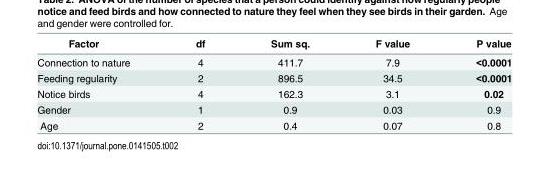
<table><thead><tr><td>Factor</td><td>df</td><td>Sum sq.</td><td>F value</td><td>P value</td></tr></thead><tbody><tr><td>Connection to nature</td><td>4</td><td>411.7</td><td>7.9</td><td>&lt;0.0001</td></tr><tr><td>Feeding regularity</td><td>2</td><td>896.5</td><td>34.5</td><td>&lt;0.0001</td></tr><tr><td>Notice birds</td><td>4</td><td>162.3</td><td>3.1</td><td>0.02</td></tr><tr><td>Gender</td><td>1</td><td>0.9</td><td>0.03</td><td>0.9</td></tr><tr><td>Age</td><td>2</td><td>0.4</td><td>0.07</td><td>0.8</td></tr></tbody></table>